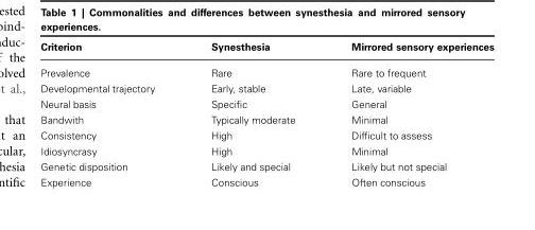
<table><thead><tr><td>Criterion</td><td>Synesthesia</td><td>Mirrored sensory experiences</td></tr></thead><tbody><tr><td>Prevalence</td><td>Rare</td><td>Rare to frequent</td></tr><tr><td>Developmental trajectory</td><td>Early, stable</td><td>Late, variable</td></tr><tr><td>Neural basis</td><td>Specific</td><td>General</td></tr><tr><td>Bandwith</td><td>Typically moderate</td><td>Minimal</td></tr><tr><td>Consistency</td><td>High</td><td>Difficult to assess</td></tr><tr><td>Idiosyncrasy</td><td>High</td><td>Minimal</td></tr><tr><td>Genetic disposition</td><td>Likely and special</td><td>Likely but not special</td></tr><tr><td>Experience</td><td>Conscious</td><td>Often conscious</td></tr></tbody></table>